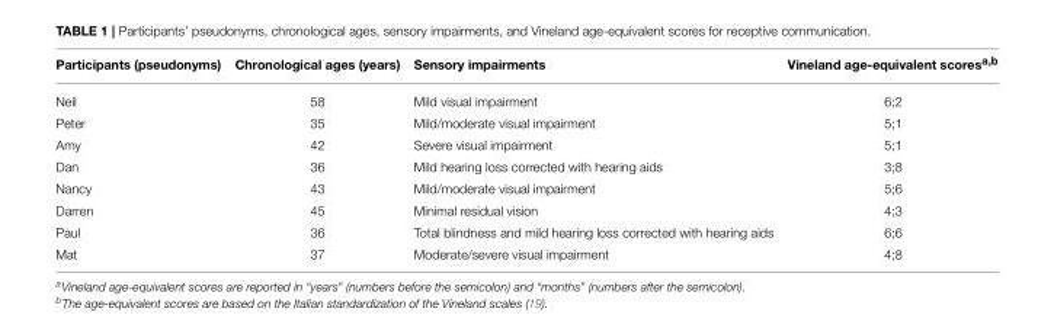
<table><thead><tr><td>Participants (pseudonyms)</td><td>Chronological ages (years)</td><td>Sensory impairments</td><td>Vineland age-equivalent scores<sup>a</sup>,<sup>b</sup></td></tr></thead><tbody><tr><td>Neil</td><td>58</td><td>Mild visual impairment</td><td>6;2</td></tr><tr><td>Peter</td><td>35</td><td>Mild/moderate visual impairment</td><td>5;1</td></tr><tr><td>Amy</td><td>42</td><td>Severe visual impairment</td><td>5;1</td></tr><tr><td>Dan</td><td>36</td><td>Mild hearing loss corrected with hearing aids</td><td>3;8</td></tr><tr><td>Nancy</td><td>43</td><td>Mild/moderate visual impairment</td><td>5;6</td></tr><tr><td>Darren</td><td>45</td><td>Minimal residual vision</td><td>4;3</td></tr><tr><td>Paul</td><td>36</td><td>Total blindness and mild hearing loss corrected with hearing aids</td><td>6;6</td></tr><tr><td>Mat</td><td>37</td><td>Moderate/severe visual impairment</td><td>4;8</td></tr></tbody></table>